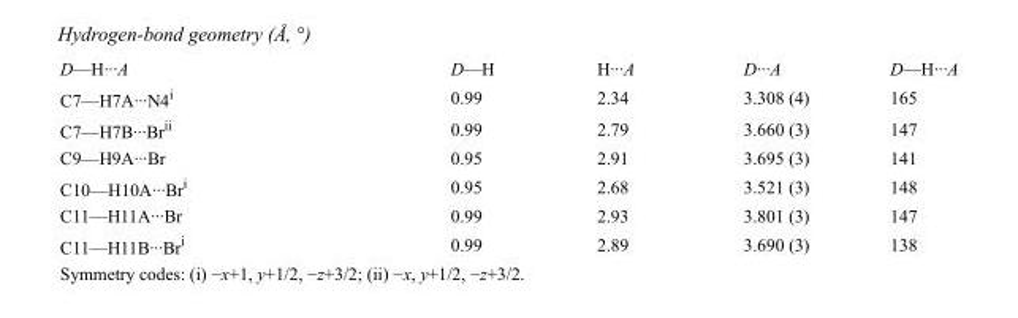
<table><tbody><tr><td>D—H···A</td><td>D—H</td><td>H···A</td><td>D···A</td><td>D—H···A</td></tr><tr><td>C7—H7A···N4<sup>i</sup></td><td>0.99</td><td>2.34</td><td>3.308 (4)</td><td>165</td></tr><tr><td>C7—H7B···Br<sup>ii</sup></td><td>0.99</td><td>2.79</td><td>3.660 (3)</td><td>147</td></tr><tr><td>C9—H9A···Br</td><td>0.95</td><td>2.91</td><td>3.695 (3)</td><td>141</td></tr><tr><td>C10—H10A···Br<sup>i</sup></td><td>0.95</td><td>2.68</td><td>3.521 (3)</td><td>148</td></tr><tr><td>C11—H11A···Br</td><td>0.99</td><td>2.93</td><td>3.801 (3)</td><td>147</td></tr><tr><td>C11—H11B···Br<sup>i</sup></td><td>0.99</td><td>2.89</td><td>3.690 (3)</td><td>138</td></tr></tbody></table>